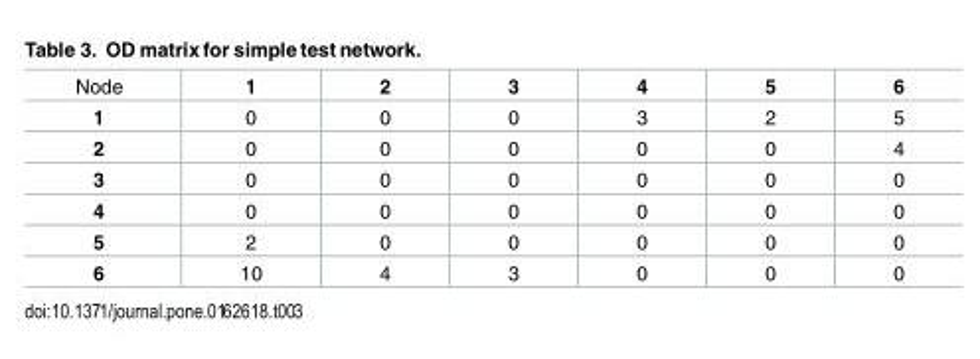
<table><tbody><tr><td>Node</td><td>1</td><td>2</td><td>3</td><td>4</td><td>5</td><td>6</td></tr><tr><td>1</td><td>0</td><td>0</td><td>0</td><td>3</td><td>2</td><td>5</td></tr><tr><td>2</td><td>0</td><td>0</td><td>0</td><td>0</td><td>0</td><td>4</td></tr><tr><td>3</td><td>0</td><td>0</td><td>0</td><td>0</td><td>0</td><td>0</td></tr><tr><td>4</td><td>0</td><td>0</td><td>0</td><td>0</td><td>0</td><td>0</td></tr><tr><td>5</td><td>2</td><td>0</td><td>0</td><td>0</td><td>0</td><td>0</td></tr><tr><td>6</td><td>10</td><td>4</td><td>3</td><td>0</td><td>0</td><td>0</td></tr></tbody></table>